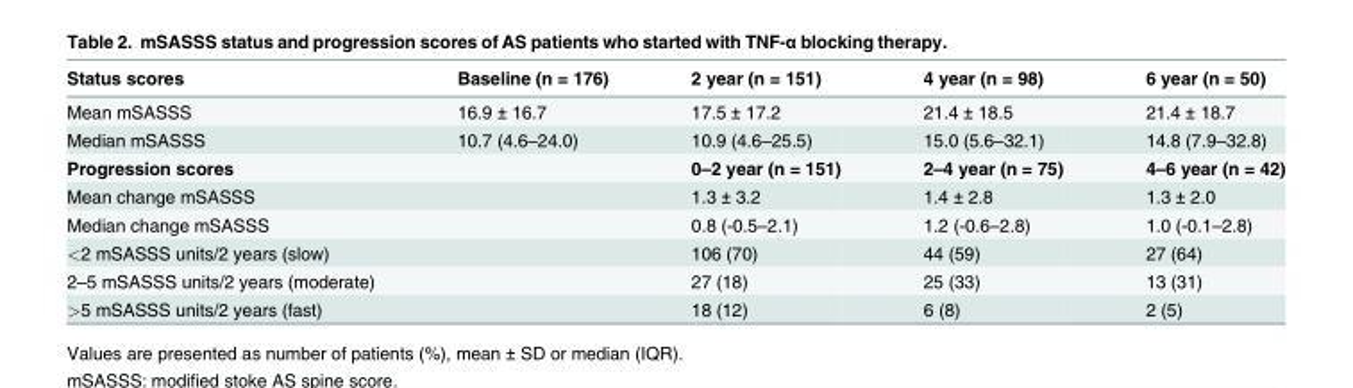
<table><thead><tr><td>Status scores</td><td>Baseline (n = 176)</td><td>2 year (n = 151)</td><td>4 year (n = 98)</td><td>6 year (n = 50)</td></tr></thead><tbody><tr><td>Mean mSASSS</td><td>16.9 ± 16.7</td><td>17.5 ± 17.2</td><td>21.4 ± 18.5</td><td>21.4 ± 18.7</td></tr><tr><td>Median mSASSS</td><td>10.7 (4.6–24.0)</td><td>10.9 (4.6–25.5)</td><td>15.0 (5.6–32.1)</td><td>14.8 (7.9–32.8)</td></tr><tr><td>Progression scores</td><td></td><td>0–2 year (n = 151)</td><td>2–4 year (n = 75)</td><td>4–6 year (n = 42)</td></tr><tr><td>Mean change mSASSS</td><td></td><td>1.3 ± 3.2</td><td>1.4 ± 2.8</td><td>1.3 ± 2.0</td></tr><tr><td>Median change mSASSS</td><td></td><td>0.8 (-0.5–2.1)</td><td>1.2 (-0.6–2.8)</td><td>1.0 (-0.1–2.8)</td></tr><tr><td>&lt;2 mSASSS units/2 years (slow)</td><td></td><td>106 (70)</td><td>44 (59)</td><td>27 (64)</td></tr><tr><td>2–5 mSASSS units/2 years (moderate)</td><td></td><td>27 (18)</td><td>25 (33)</td><td>13 (31)</td></tr><tr><td>&gt;5 mSASSS units/2 years (fast)</td><td></td><td>18 (12)</td><td>6 (8)</td><td>2 (5)</td></tr></tbody></table>